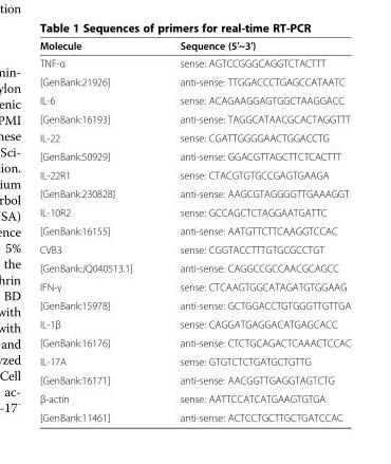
<table><thead><tr><td>Molecule</td><td>Sequence (5′~3′)</td></tr></thead><tbody><tr><td>TNF-α</td><td>sense: AGTCCGGGCAGGTCTACTTT</td></tr><tr><td>[GenBank:21926]</td><td>anti-sense: TTGGACCCTGAGCCATAATC</td></tr><tr><td>IL-6</td><td>sense: ACAGAAGGAGTGGCTAAGGACC</td></tr><tr><td>[GenBank:16193]</td><td>anti-sense: TAGGCATAACGCACTAGGTTT</td></tr><tr><td>IL-22</td><td>sense: CGATTGGGGAACTGGACCTG</td></tr><tr><td>[GenBank:50929]</td><td>anti-sense: GGACGTTAGCTTCTCACTTT</td></tr><tr><td>IL-22R1</td><td>sense: CTACGTGTGCCGAGTGAAGA</td></tr><tr><td>[GenBank:230828]</td><td>anti-sense: AAGCGTAGGGGTTGAAAGGT</td></tr><tr><td>IL-10R2</td><td>sense: GCCAGCTCTAGGAATGATTC</td></tr><tr><td>[GenBank:16155]</td><td>anti-sense: AATGTTCTTCAAGGTCCAC</td></tr><tr><td>CVB3</td><td>sense: CGGTACCTTTGTGCGCCTGT</td></tr><tr><td>[GenBank:JQ040513.1]</td><td>anti-sense: CAGGCCGCCAACGCAGCC</td></tr><tr><td>IFN-γ</td><td>sense: CTCAAGTGGCATAGATGTGGAAG</td></tr><tr><td>[GenBank:15978]</td><td>anti-sense: GCTGGACCTGTGGGTTGTTGA</td></tr><tr><td>IL-1β</td><td>sense: CAGGATGAGGACATGAGCACC</td></tr><tr><td>[GenBank:16176]</td><td>anti-sense: CTCTGCAGACTCAAACTCCAC</td></tr><tr><td>IL-17A</td><td>sense: GTGTCTCTGATGCTGTTG</td></tr><tr><td>[GenBank:16171]</td><td>anti-sense: AACGGTTGAGGTAGTCTG</td></tr><tr><td>β-actin</td><td>sense: AATTCCATCATGAAGTGTGA</td></tr><tr><td>[GenBank:11461]</td><td>anti-sense: ACTCCTGCTTGCTGATCCAC</td></tr></tbody></table>